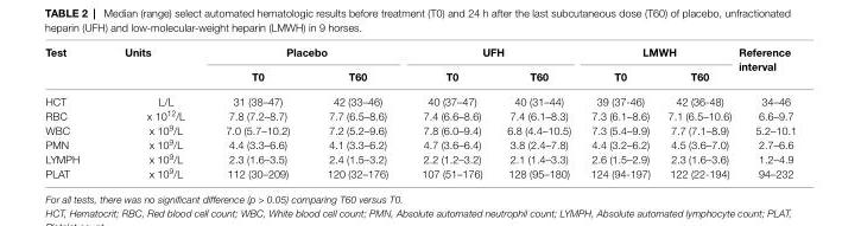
<table><thead><tr><td rowspan="2">Test</td><td rowspan="2">units</td><td colspan="2">Placebo</td><td colspan="2">uFh</td><td colspan="2">lMWh</td><td rowspan="2">reference interval</td></tr><tr><td>T0</td><td>T60</td><td>T0</td><td>T60</td><td>T0</td><td>T60</td></tr></thead><tbody><tr><td>HCT</td><td>L/L</td><td>31 (38–47)</td><td>42 (33–46)</td><td>40 (37–47)</td><td>40 (31–44)</td><td>39 (37-46)</td><td>42 (36-48)</td><td>34–46</td></tr><tr><td>RBC</td><td>x 10<sup>12</sup>/L</td><td>7.8 (7.2–8.7)</td><td>7.7 (6.5–8.6)</td><td>7.4 (6.6–8.6)</td><td>7.4 (6.1–8.3)</td><td>7.3 (6.1–8.6)</td><td>7.1 (6.5–10.6)</td><td>6.6–9.7</td></tr><tr><td>WBC</td><td>x 10<sup>9</sup>/L</td><td>7.0 (5.7–10.2)</td><td>7.2 (5.2–9.6)</td><td>7.8 (6.0–9.4)</td><td>6.8 (4.4–10.5)</td><td>7.3 (5.4–9.9)</td><td>7.7 (7.1–8.9)</td><td>5.2–10.1</td></tr><tr><td>PMN</td><td>x 10<sup>9</sup>/L</td><td>4.4 (3.3–6.6)</td><td>4.1 (3.3–6.2)</td><td>4.7 (3.6–6.4)</td><td>3.8 (2.4–7.8)</td><td>4.4 (3.2–6.2)</td><td>4.5 (3.6–7.0)</td><td>2.7–6.6</td></tr><tr><td>LYMPH</td><td>x 10<sup>9</sup>/L</td><td>2.3 (1.6–3.5)</td><td>2.4 (1.5–3.2)</td><td>2.2 (1.2–3.2)</td><td>2.1 (1.4–3.3)</td><td>2.6 (1.5–2.9)</td><td>2.3 (1.6–3.6)</td><td>1.2–4.9</td></tr><tr><td>PLAT</td><td>x 10<sup>9</sup>/L</td><td>112 (30–209)</td><td>120 (32–176)</td><td>107 (51–176)</td><td>128 (95–180)</td><td>124 (94-197)</td><td>122 (22-194)</td><td>94–232</td></tr></tbody></table>